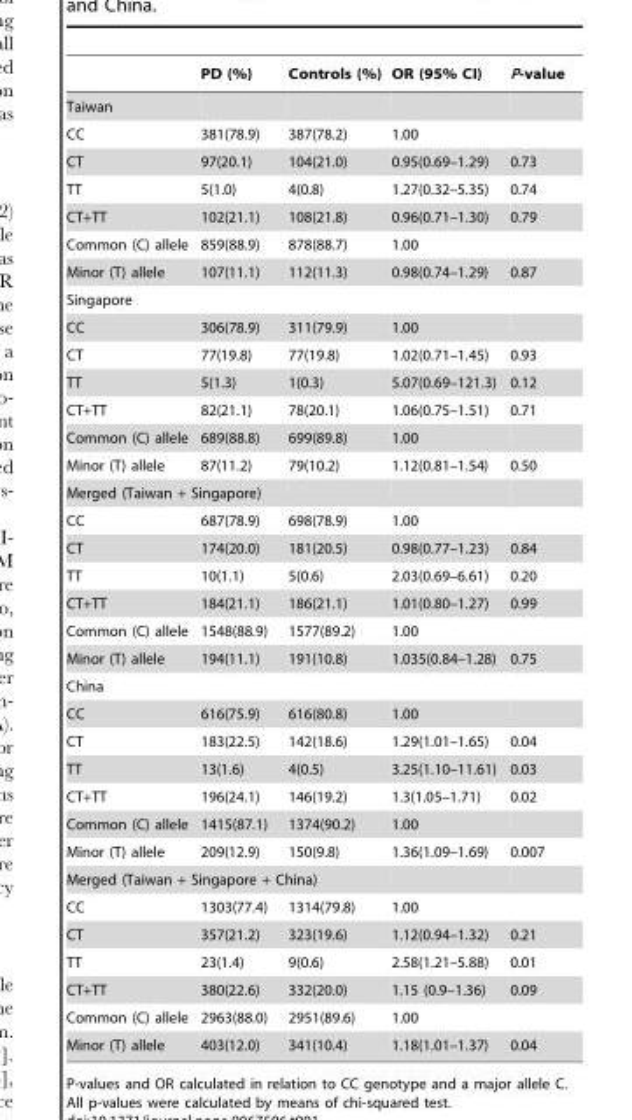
<table><thead><tr><td></td><td>PD (%)</td><td>Controls (%)</td><td>OR (95% CI)</td><td>P-value</td></tr></thead><tbody><tr><td colspan="5">Taiwan</td></tr><tr><td>CC</td><td>381(78.9)</td><td>387(78.2)</td><td>1.00</td><td></td></tr><tr><td>CT</td><td>97(20.1)</td><td>104(21.0)</td><td>0.95(0.69–1.29)</td><td>0.73</td></tr><tr><td>TT</td><td>5(1.0)</td><td>4(0.8)</td><td>1.27(0.32–5.35)</td><td>0.74</td></tr><tr><td>CT+TT</td><td>102(21.1)</td><td>108(21.8)</td><td>0.96(0.71–1.30)</td><td>0.79</td></tr><tr><td>Common (C) allele</td><td>859(88.9)</td><td>878(88.7)</td><td>1.00</td><td></td></tr><tr><td>Minor (T) allele</td><td>107(11.1)</td><td>112(11.3)</td><td>0.98(0.74–1.29)</td><td>0.87</td></tr><tr><td colspan="5">Singapore</td></tr><tr><td>CC</td><td>306(78.9)</td><td>311(79.9)</td><td>1.00</td><td></td></tr><tr><td>CT</td><td>77(19.8)</td><td>77(19.8)</td><td>1.02(0.71–1.45)</td><td>0.93</td></tr><tr><td>TT</td><td>5(1.3)</td><td>1(0.3)</td><td>5.07(0.69–121.3)</td><td>0.12</td></tr><tr><td>CT+TT</td><td>82(21.1)</td><td>78(20.1)</td><td>1.06(0.75–1.51)</td><td>0.71</td></tr><tr><td>Common (C) allele</td><td>689(88.8)</td><td>699(89.8)</td><td>1.00</td><td></td></tr><tr><td>Minor (T) allele</td><td>87(11.2)</td><td>79(10.2)</td><td>1.12(0.81–1.54)</td><td>0.50</td></tr><tr><td colspan="5">Merged (Taiwan + Singapore)</td></tr><tr><td>CC</td><td>687(78.9)</td><td>698(78.9)</td><td>1.00</td><td></td></tr><tr><td>CT</td><td>174(20.0)</td><td>181(20.5)</td><td>0.98(0.77–1.23)</td><td>0.84</td></tr><tr><td>TT</td><td>10(1.1)</td><td>5(0.6)</td><td>2.03(0.69–6.61)</td><td>0.20</td></tr><tr><td>CT+TT</td><td>184(21.1)</td><td>186(21.1)</td><td>1.01(0.80–1.27)</td><td>0.99</td></tr><tr><td>Common (C) allele</td><td>1548(88.9)</td><td>1577(89.2)</td><td>1.00</td><td></td></tr><tr><td>Minor (T) allele</td><td>194(11.1)</td><td>191(10.8)</td><td>1.035(0.84–1.28)</td><td>0.75</td></tr><tr><td colspan="5">China</td></tr><tr><td>CC</td><td>616(75.9)</td><td>616(80.8)</td><td>1.00</td><td></td></tr><tr><td>CT</td><td>183(22.5)</td><td>142(18.6)</td><td>1.29(1.01–1.65)</td><td>0.04</td></tr><tr><td>TT</td><td>13(1.6)</td><td>4(0.5)</td><td>3.25(1.10–11.61)</td><td>0.03</td></tr><tr><td>CT+TT</td><td>196(24.1)</td><td>146(19.2)</td><td>1.3(1.05–1.71)</td><td>0.02</td></tr><tr><td>Common (C) allele</td><td>1415(87.1)</td><td>1374(90.2)</td><td>1.00</td><td></td></tr><tr><td>Minor (T) allele</td><td>209(12.9)</td><td>150(9.8)</td><td>1.36(1.09–1.69)</td><td>0.007</td></tr><tr><td colspan="5">Merged (Taiwan + Singapore + China)</td></tr><tr><td>CC</td><td>1303(77.4)</td><td>1314(79.8)</td><td>1.00</td><td></td></tr><tr><td>CT</td><td>357(21.2)</td><td>323(19.6)</td><td>1.12(0.94–1.32)</td><td>0.21</td></tr><tr><td>TT</td><td>23(1.4)</td><td>9(0.6)</td><td>2.58(1.21–5.88)</td><td>0.01</td></tr><tr><td>CT+TT</td><td>380(22.6)</td><td>332(20.0)</td><td>1.15 (0.9–1.36)</td><td>0.09</td></tr><tr><td>Common (C) allele</td><td>2963(88.0)</td><td>2951(89.6)</td><td>1.00</td><td></td></tr><tr><td>Minor (T) allele</td><td>403(12.0)</td><td>341(10.4)</td><td>1.18(1.01–1.37)</td><td>0.04</td></tr></tbody></table>